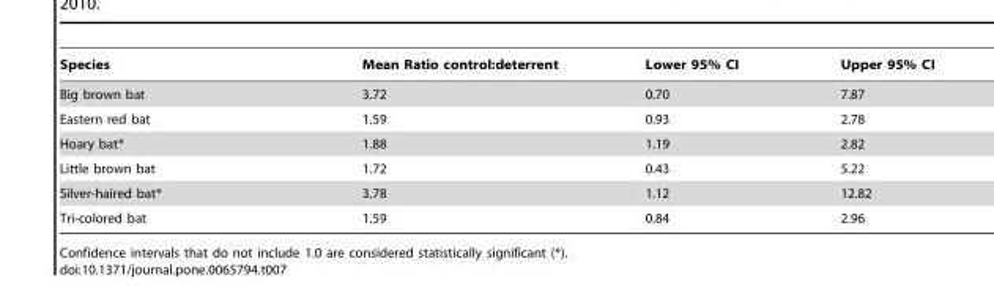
<table><thead><tr><td>Species</td><td>Mean Ratio control:deterrent</td><td>Lower 95% CI</td><td>Upper 95% CI</td></tr></thead><tbody><tr><td>Big brown bat</td><td>3.72</td><td>0.70</td><td>7.87</td></tr><tr><td>Eastern red bat</td><td>1.59</td><td>0.93</td><td>2.78</td></tr><tr><td>Hoary bat*</td><td>1.88</td><td>1.19</td><td>2.82</td></tr><tr><td>Little brown bat</td><td>1.72</td><td>0.43</td><td>5.22</td></tr><tr><td>Silver-haired bat*</td><td>3.78</td><td>1.12</td><td>12.82</td></tr><tr><td>Tri-colored bat</td><td>1.59</td><td>0.84</td><td>2.96</td></tr></tbody></table>